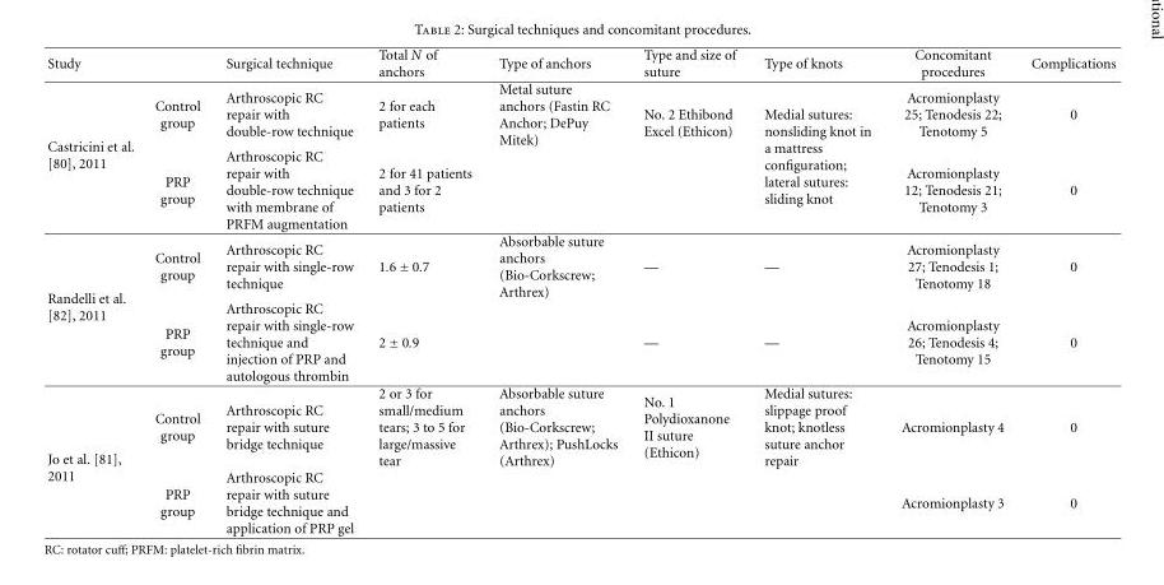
<table><thead><tr><td>Study</td><td></td><td>Surgical technique</td><td>Total N of anchors</td><td>Type of anchors</td><td>Type and size of suture</td><td>Type of knots</td><td>Concomitant procedures</td><td>Complications</td></tr></thead><tbody><tr><td rowspan="2">Castricini et al. [80], 2011</td><td>Control group</td><td>Arthroscopic RC repair with double-row technique</td><td>2 for each patients</td><td>Metal suture anchors (Fastin RC Anchor; DePuy Mitek)</td><td rowspan="2">No. 2 Ethibond Excel (Ethicon)</td><td rowspan="2">Medial sutures: nonsliding knot in a mattress configuration; lateral sutures: sliding knot</td><td>Acromionplasty 25; Tenodesis 22; Tenotomy 5</td><td>0</td></tr><tr><td>PRP group</td><td>Arthroscopic RC repair with double-row technique with membrane of PRFM augmentation</td><td>2 for 41 patients and 3 for 2 patients</td><td></td><td>Acromionplasty 12; Tenodesis 21; Tenotomy 3</td><td>0</td></tr><tr><td rowspan="2">Randelli et al. [82], 2011</td><td>Control group</td><td>Arthroscopic RC repair with single-row technique</td><td>1.6 ± 0.7</td><td>Absorbable suture anchors (Bio-Corkscrew; Arthrex)</td><td>—</td><td>—</td><td>Acromionplasty 27; Tenodesis 1; Tenotomy 18</td><td>0</td></tr><tr><td>PRP group</td><td>Arthroscopic RC repair with single-row technique and injection of PRP and autologous thrombin</td><td>2 ± 0.9</td><td></td><td>—</td><td>—</td><td>Acromionplasty 26; Tenodesis 4; Tenotomy 15</td><td>0</td></tr><tr><td rowspan="2">Jo et al. [81], 2011</td><td>Control group</td><td>Arthroscopic RC repair with suture bridge technique</td><td>2 or 3 for small/medium tears; 3 to 5 for large/massive tear</td><td>Absorbable suture anchors (Bio-Corkscrew; Arthrex); PushLocks (Arthrex)</td><td>No. 1 Polydioxanone II suture (Ethicon)</td><td>Medial sutures: slippage proof knot; knotless suture anchor repair</td><td>Acromionplasty 4</td><td>0</td></tr><tr><td>PRP group</td><td>Arthroscopic RC repair with suture bridge technique and application of PRP gel</td><td></td><td></td><td></td><td></td><td>Acromionplasty 3</td><td>0</td></tr></tbody></table>